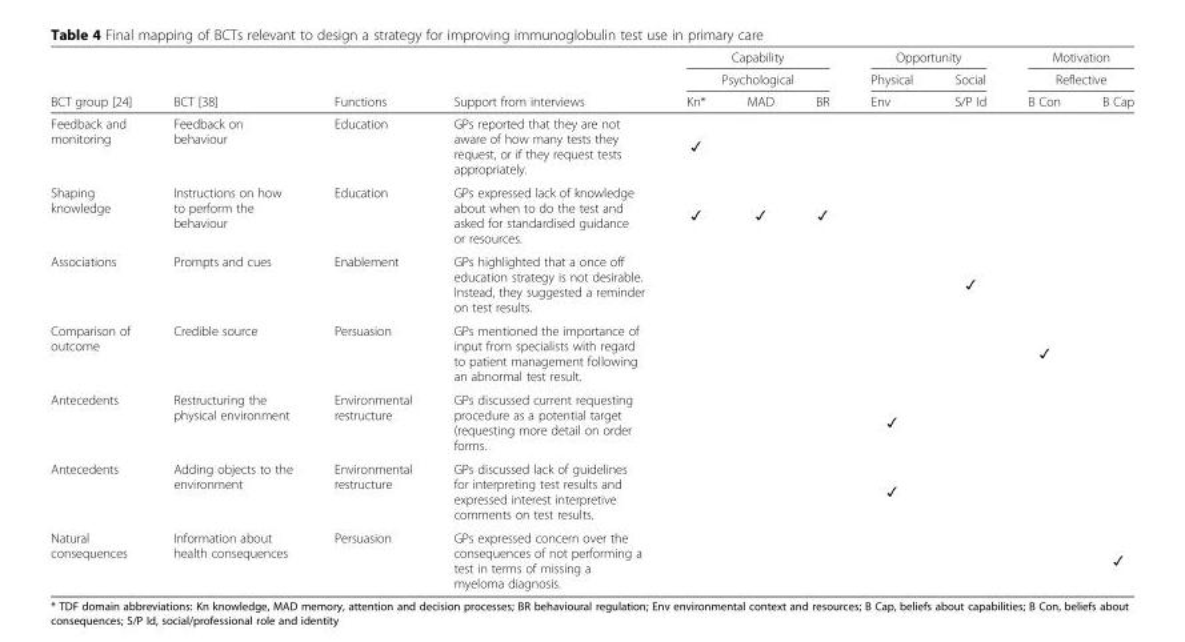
<table><thead><tr><td rowspan="3">BCT group [24]</td><td rowspan="3">BCT [38]</td><td rowspan="3">Functions</td><td rowspan="3">Support from interviews</td><td rowspan="2" colspan="3">Capability Psychological</td><td colspan="2">Opportunity</td><td rowspan="2" colspan="2">Motivation Reflective</td></tr><tr><td rowspan="2">Physical Env</td><td rowspan="2">Social S/P Id</td></tr><tr><td>Kn*</td><td>MAD</td><td>BR</td><td>B Con</td><td>B Cap</td></tr></thead><tbody><tr><td>Feedback and monitoring</td><td>Feedback on behaviour</td><td>Education</td><td>GPs reported that they are not aware of how many tests they request, or if they request tests appropriately.</td><td>✓</td><td></td><td></td><td></td><td></td><td></td><td></td></tr><tr><td>Shaping knowledge</td><td>Instructions on how to perform the behaviour</td><td>Education</td><td>GPs expressed lack of knowledge about when to do the test and asked for standardised guidance or resources.</td><td>✓</td><td>✓</td><td>✓</td><td></td><td></td><td></td><td></td></tr><tr><td>Associations</td><td>Prompts and cues</td><td>Enablement</td><td>GPs highlighted that a once off education strategy is not desirable. Instead, they suggested a reminder on test results.</td><td></td><td></td><td></td><td></td><td>✓</td><td></td><td></td></tr><tr><td>Comparison of outcome</td><td>Credible source</td><td>Persuasion</td><td>GPs mentioned the importance of input from specialists with regard to patient management following an abnormal test result.</td><td></td><td></td><td></td><td></td><td></td><td>✓</td><td></td></tr><tr><td>Antecedents</td><td>Restructuring the physical environment</td><td>Environmental restructure</td><td>GPs discussed current requesting procedure as a potential target (requesting more detail on order forms.</td><td></td><td></td><td></td><td>✓</td><td></td><td></td><td></td></tr><tr><td>Antecedents</td><td>Adding objects to the environment</td><td>Environmental restructure</td><td>GPs discussed lack of guidelines for interpreting test results and expressed interest interpretive comments on test results.</td><td></td><td></td><td></td><td>✓</td><td></td><td></td><td></td></tr><tr><td>Natural consequences</td><td>Information about health consequences</td><td>Persuasion</td><td>GPs expressed concern over the consequences of not performing a test in terms of missing a myeloma diagnosis.</td><td></td><td></td><td></td><td></td><td></td><td></td><td>✓</td></tr></tbody></table>